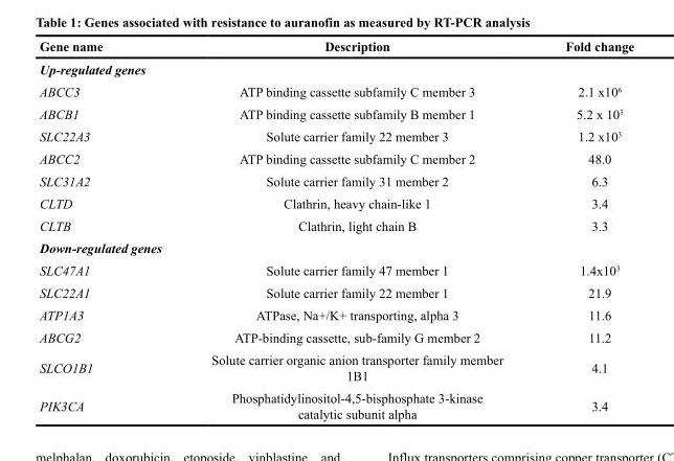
<table><thead><tr><td>Gene name</td><td>Description</td><td>Fold change</td></tr></thead><tbody><tr><td colspan="3">Up-regulated genes</td></tr><tr><td>ABCC3</td><td>ATP binding cassette subfamily C member 3</td><td>2.1 x10<sup>6</sup></td></tr><tr><td>ABCB1</td><td>ATP binding cassette subfamily B member 1</td><td>5.2 x 103</td></tr><tr><td>SLC22A3</td><td>Solute carrier family 22 member 3</td><td>1.2 x10<sup>3</sup></td></tr><tr><td>ABCC2</td><td>ATP binding cassette subfamily C member 2</td><td>48.0</td></tr><tr><td>SLC31A2</td><td>Solute carrier family 31 member 2</td><td>6.3</td></tr><tr><td>CLTD</td><td>Clathrin, heavy chain-like 1</td><td>3.4</td></tr><tr><td>CLTB</td><td>Clathrin, light chain B</td><td>3.3</td></tr><tr><td colspan="3">Down-regulated genes</td></tr><tr><td>SLC47A1</td><td>Solute carrier family 47 member 1</td><td>1.4x103</td></tr><tr><td>SLC22A1</td><td>Solute carrier family 22 member 1</td><td>21.9</td></tr><tr><td>ATP1A3</td><td>ATPase, Na+/K+ transporting, alpha 3</td><td>11.6</td></tr><tr><td>ABCG2</td><td>ATP-binding cassette, sub-family G member 2</td><td>11.2</td></tr><tr><td>SLCO1B1</td><td>Solute carrier organic anion transporter family member 1B1</td><td>4.1</td></tr><tr><td>PIK3CA</td><td>Phosphatidylinositol-4,5-bisphosphate 3-kinase catalytic subunit alpha</td><td>3.4</td></tr></tbody></table>